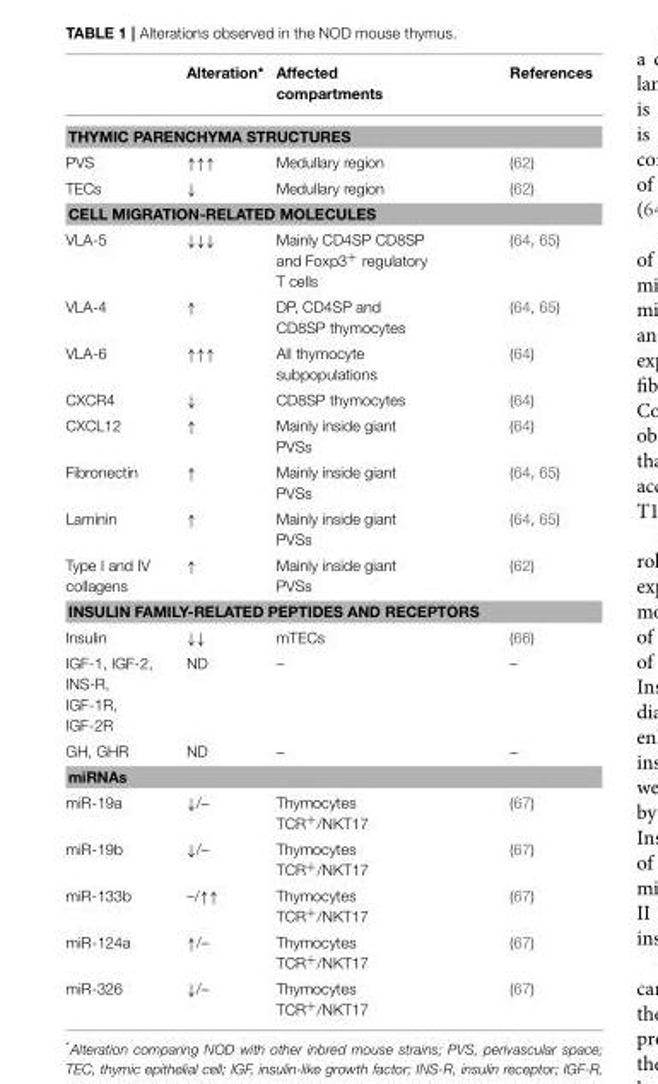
<table><thead><tr><td></td><td>Alteration*</td><td>Affected compartments</td><td>References</td></tr></thead><tbody><tr><td colspan="4">THYMIC PARENCHYMA STRUCTURES</td></tr><tr><td>PVS</td><td>↑↑↑</td><td>Medullary region</td><td>(62)</td></tr><tr><td>TECs</td><td>↓</td><td>Medullary region</td><td>(62)</td></tr><tr><td colspan="4">CELL MIGRATION-RELATED MOLECULES</td></tr><tr><td>VLA-5</td><td>↓↓↓</td><td>Mainly CD4SP CD8SP and Foxp3<sup>+</sup> regulatory T cells</td><td>(64, 65)</td></tr><tr><td>VLA-4</td><td>↑</td><td>DP, CD4SP and CD8SP thymocytes</td><td>(64, 65)</td></tr><tr><td>VLA-6</td><td>↑↑↑</td><td>All thymocyte subpopulations</td><td>(64)</td></tr><tr><td>CXCR4</td><td>↓</td><td>CD8SP thymocytes</td><td>(64)</td></tr><tr><td>CXCL12</td><td>↑</td><td>Mainly inside giant PVSs</td><td>(64)</td></tr><tr><td>Fibronectin</td><td>↑</td><td>Mainly inside giant PVSs</td><td>(64, 65)</td></tr><tr><td>Laminin</td><td>↑</td><td>Mainly inside giant PVSs</td><td>(64, 65)</td></tr><tr><td>Type I and IV collagens</td><td>↑</td><td>Mainly inside giant PVSs</td><td>(62)</td></tr><tr><td colspan="4">INSULIN FAMILY-RELATED PEPTIDES AND RECEPTORS</td></tr><tr><td>Insulin</td><td>↓↓</td><td>mTECs</td><td>(66)</td></tr><tr><td>IGF-1, IGF-2, INS-R, IGF-1R, IGF-2R</td><td>ND</td><td>–</td><td>–</td></tr><tr><td>GH, GHR</td><td>ND</td><td>–</td><td>–</td></tr><tr><td colspan="4">miRNAs</td></tr><tr><td>miR-19a</td><td>↓/–</td><td>Thymocytes TCR<sup>+</sup>/NKT17</td><td>(67)</td></tr><tr><td>miR-19b</td><td>↓/–</td><td>Thymocytes TCR<sup>+</sup>/NKT17</td><td>(67)</td></tr><tr><td>miR-133b</td><td>–/↑↑</td><td>Thymocytes TCR<sup>+</sup>/NKT17</td><td>(67)</td></tr><tr><td>miR-124a</td><td>↑/–</td><td>Thymocytes TCR<sup>+</sup>/NKT17</td><td>(67)</td></tr><tr><td>miR-326</td><td>↓/–</td><td>Thymocytes TCR<sup>+</sup>/NKT17</td><td>(67)</td></tr></tbody></table>